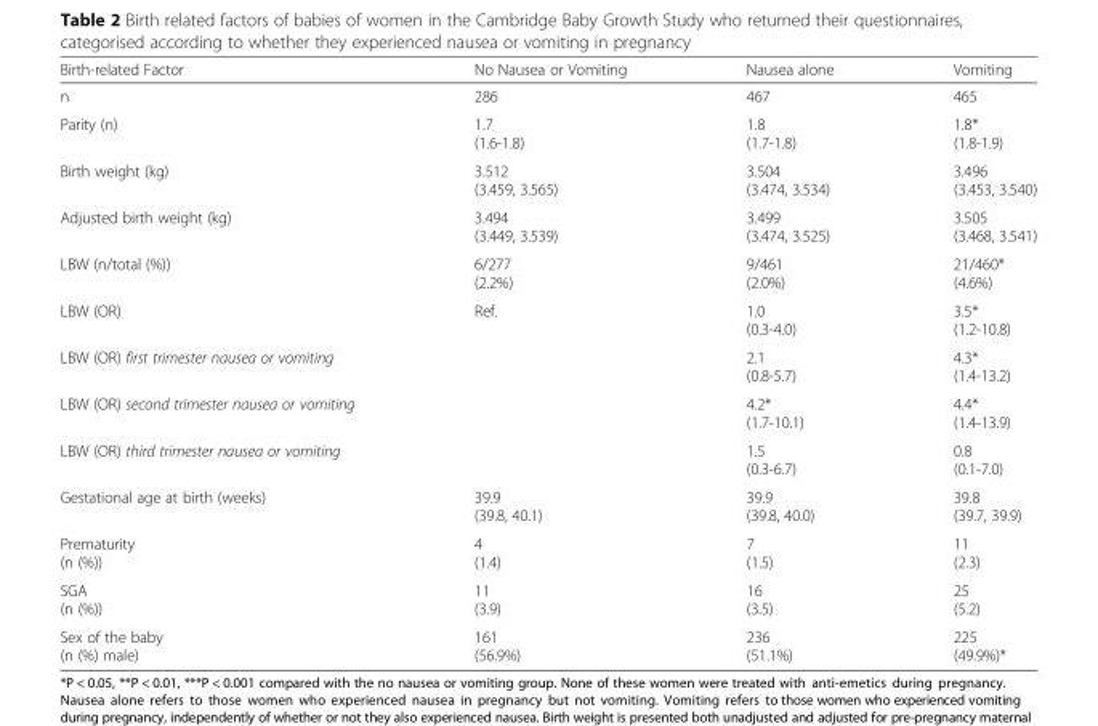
<table><thead><tr><td>Birth-related Factor</td><td>No Nausea or Vomiting</td><td>Nausea alone</td><td>Vomiting</td></tr></thead><tbody><tr><td>n</td><td>286</td><td>467</td><td>465</td></tr><tr><td>Parity (n)</td><td>1.7 (1.6-1.8)</td><td>1.8 (1.7-1.8)</td><td>1.8* (1.8-1.9)</td></tr><tr><td>Birth weight (kg)</td><td>3.512 (3.459, 3.565)</td><td>3.504 (3.474, 3.534)</td><td>3.496 (3.453, 3.540)</td></tr><tr><td>Adjusted birth weight (kg)</td><td>3.494 (3.449, 3.539)</td><td>3.499 (3.474, 3.525)</td><td>3.505 (3.468, 3.541)</td></tr><tr><td>LBW (n/total (%))</td><td>6/277 (2.2%)</td><td>9/461 (2.0%)</td><td>21/460* (4.6%)</td></tr><tr><td>LBW (OR)</td><td rowspan="4">Ref.</td><td>1.0 (0.3-4.0)</td><td>3.5* (1.2-10.8)</td></tr><tr><td>LBW (OR) first trimester nausea or vomiting</td><td>2.1 (0.8-5.7)</td><td>4.3* (1.4-13.2)</td></tr><tr><td>LBW (OR) second trimester nausea or vomiting</td><td>4.2* (1.7-10.1)</td><td>4.4* (1.4-13.9)</td></tr><tr><td>LBW (OR) third trimester nausea or vomiting</td><td>1.5 (0.3-6.7)</td><td>0.8 (0.1-7.0)</td></tr><tr><td>Gestational age at birth (weeks)</td><td>39.9 (39.8, 40.1)</td><td>39.9 (39.8, 40.0)</td><td>39.8 (39.7, 39.9)</td></tr><tr><td>Prematurity (n (%))</td><td>4 (1.4)</td><td>7 (1.5)</td><td>11 (2.3)</td></tr><tr><td>SGA (n (%))</td><td>11 (3.9)</td><td>16 (3.5)</td><td>25 (5.2)</td></tr><tr><td>Sex of the baby (n (%) male)</td><td>161 (56.9%)</td><td>236 (51.1%)</td><td>225 (49.9%)*</td></tr></tbody></table>